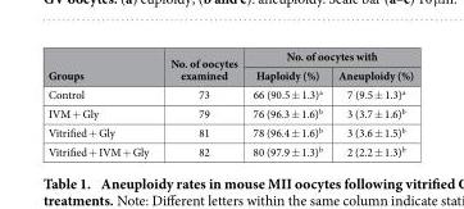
<table><thead><tr><td rowspan="2">Groups</td><td rowspan="2">No. of oocytes examined</td><td colspan="2">No. of oocytes with</td></tr><tr><td>Haploidy (%)</td><td>Aneuploidy (%)</td></tr></thead><tbody><tr><td>Control</td><td>73</td><td>66 (90.5 ± 1.3)<sup>a</sup></td><td>7 (9.5 ± 1.3)<sup>a</sup></td></tr><tr><td>IVM + Gly</td><td>79</td><td>76 (96.3 ± 1.6)<sup>b</sup></td><td>3 (3.7 ± 1.6)<sup>b</sup></td></tr><tr><td>Vitrified + Gly</td><td>81</td><td>78 (96.4 ± 1.6)<sup>b</sup></td><td>3 (3.6 ± 1.5)<sup>b</sup></td></tr><tr><td>Vitrified + IVM + Gly</td><td>82</td><td>80 (97.9 ± 1.3)<sup>b</sup></td><td>2 (2.2 ± 1.3)<sup>b</sup></td></tr></tbody></table>